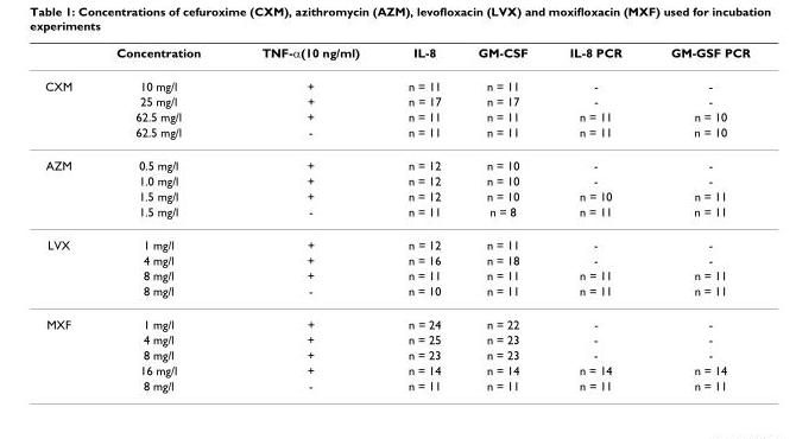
<table><thead><tr><td></td><td>Concentration</td><td>TNF-α(10 ng/ml)</td><td>IL-8</td><td>GM-CSF</td><td>IL-8 PCR</td><td>GM-GSF PCR</td></tr></thead><tbody><tr><td rowspan="4">CXM</td><td>10 mg/l</td><td>+</td><td>n = 11</td><td>n = 11</td><td>-</td><td>-</td></tr><tr><td>25 mg/l</td><td>+</td><td>n = 17</td><td>n = 17</td><td>-</td><td>-</td></tr><tr><td>62.5 mg/l</td><td>+</td><td>n = 11</td><td>n = 11</td><td>n = 11</td><td>n = 10</td></tr><tr><td>62.5 mg/l</td><td>-</td><td>n = 11</td><td>n = 11</td><td>n = 11</td><td>n = 10</td></tr><tr><td rowspan="4">AZM</td><td>0.5 mg/l</td><td>+</td><td>n = 12</td><td>n = 10</td><td>-</td><td>-</td></tr><tr><td>1.0 mg/l</td><td>+</td><td>n = 12</td><td>n = 10</td><td>-</td><td>-</td></tr><tr><td>1.5 mg/l</td><td>+</td><td>n = 12</td><td>n = 10</td><td>n = 10</td><td>n = 11</td></tr><tr><td>1.5 mg/l</td><td>-</td><td>n = 11</td><td>n = 8</td><td>n = 11</td><td>n = 11</td></tr><tr><td rowspan="4">LVX</td><td>1 mg/l</td><td>+</td><td>n = 12</td><td>n = 11</td><td>-</td><td>-</td></tr><tr><td>4 mg/l</td><td>+</td><td>n = 16</td><td>n = 18</td><td>-</td><td>-</td></tr><tr><td>8 mg/l</td><td>+</td><td>n = 11</td><td>n = 11</td><td>n = 11</td><td>n = 11</td></tr><tr><td>8 mg/l</td><td>-</td><td>n = 10</td><td>n = 11</td><td>n = 11</td><td>n = 11</td></tr><tr><td rowspan="5">MXF</td><td>1 mg/l</td><td>+</td><td>n = 24</td><td>n = 22</td><td>-</td><td>-</td></tr><tr><td>4 mg/l</td><td>+</td><td>n = 25</td><td>n = 23</td><td>-</td><td>-</td></tr><tr><td>8 mg/l</td><td>+</td><td>n = 23</td><td>n = 23</td><td>-</td><td>-</td></tr><tr><td>16 mg/l</td><td>+</td><td>n = 14</td><td>n = 14</td><td>n = 14</td><td>n = 14</td></tr><tr><td>8 mg/l</td><td>-</td><td>n = 11</td><td>n = 11</td><td>n = 11</td><td>n = 11</td></tr></tbody></table>